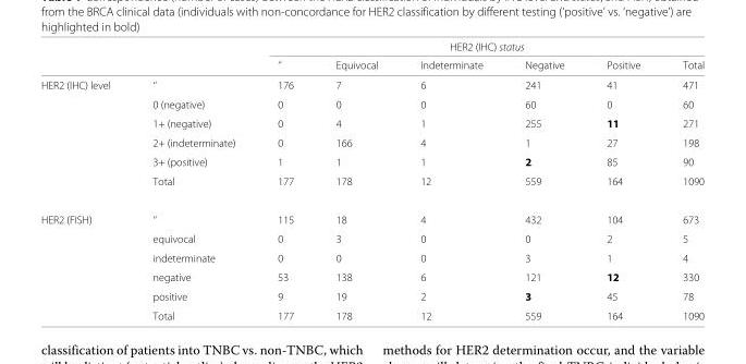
<table><thead><tr><td rowspan="2"></td><td rowspan="2"></td><td colspan="6">HER2 (IHC) status</td></tr><tr><td>‘’</td><td>Equivocal</td><td>Indeterminate</td><td>Negative</td><td>Positive</td><td>Total</td></tr></thead><tbody><tr><td rowspan="6">HER2 (IHC) level</td><td>‘’</td><td>176</td><td>7</td><td>6</td><td>241</td><td>41</td><td>471</td></tr><tr><td>0 (negative)</td><td>0</td><td>0</td><td>0</td><td>60</td><td>0</td><td>60</td></tr><tr><td>1+ (negative)</td><td>0</td><td>4</td><td>1</td><td>255</td><td>11</td><td>271</td></tr><tr><td>2+ (indeterminate)</td><td>0</td><td>166</td><td>4</td><td>1</td><td>27</td><td>198</td></tr><tr><td>3+ (positive)</td><td>1</td><td>1</td><td>1</td><td>2</td><td>85</td><td>90</td></tr><tr><td>Total</td><td>177</td><td>178</td><td>12</td><td>559</td><td>164</td><td>1090</td></tr><tr><td rowspan="6">HER2 (FISH)</td><td>‘’</td><td>115</td><td>18</td><td>4</td><td>432</td><td>104</td><td>673</td></tr><tr><td>equivocal</td><td>0</td><td>3</td><td>0</td><td>0</td><td>2</td><td>5</td></tr><tr><td>indeterminate</td><td>0</td><td>0</td><td>0</td><td>3</td><td>1</td><td>4</td></tr><tr><td>negative</td><td>53</td><td>138</td><td>6</td><td>121</td><td>12</td><td>330</td></tr><tr><td>positive</td><td>9</td><td>19</td><td>2</td><td>3</td><td>45</td><td>78</td></tr><tr><td>Total</td><td>177</td><td>178</td><td>12</td><td>559</td><td>164</td><td>1090</td></tr></tbody></table>